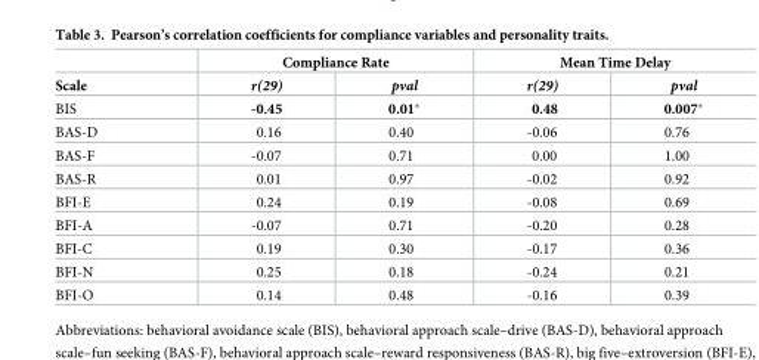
<table><thead><tr><td rowspan="2">Scale</td><td colspan="2">Compliance Rate</td><td colspan="2">Mean Time Delay</td></tr><tr><td>r(29)</td><td>pval</td><td>r(29)</td><td>pval</td></tr></thead><tbody><tr><td>BIS</td><td>-0.45</td><td>0.01*</td><td>0.48</td><td>0.007*</td></tr><tr><td>BAS-D</td><td>0.16</td><td>0.40</td><td>-0.06</td><td>0.76</td></tr><tr><td>BAS-F</td><td>-0.07</td><td>0.71</td><td>0.00</td><td>1.00</td></tr><tr><td>BAS-R</td><td>0.01</td><td>0.97</td><td>-0.02</td><td>0.92</td></tr><tr><td>BFI-E</td><td>0.24</td><td>0.19</td><td>-0.08</td><td>0.69</td></tr><tr><td>BFI-A</td><td>-0.07</td><td>0.71</td><td>-0.20</td><td>0.28</td></tr><tr><td>BFI-C</td><td>0.19</td><td>0.30</td><td>-0.17</td><td>0.36</td></tr><tr><td>BFI-N</td><td>0.25</td><td>0.18</td><td>-0.24</td><td>0.21</td></tr><tr><td>BFI-O</td><td>0.14</td><td>0.48</td><td>-0.16</td><td>0.39</td></tr></tbody></table>